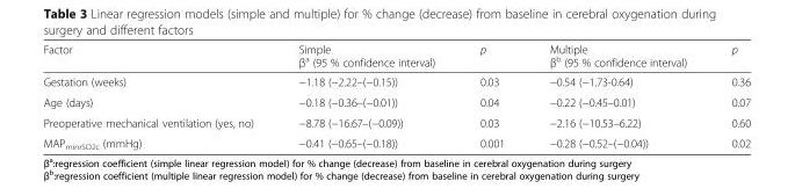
<table><thead><tr><td>Factor</td><td>Simple β<sup>a</sup> (95 % confidence interval)</td><td>p</td><td>Multiple β<sup>b</sup> (95 % confidence interval)</td><td>p</td></tr></thead><tbody><tr><td>Gestation (weeks)</td><td>−1.18 (−2.22–(−0.15))</td><td>0.03</td><td>−0.54 (−1.73-0.64)</td><td>0.36</td></tr><tr><td>Age (days)</td><td>−0.18 (−0.36–(−0.01))</td><td>0.04</td><td>−0.22 (−0.45–0.01)</td><td>0.07</td></tr><tr><td>Preoperative mechanical ventilation (yes, no)</td><td>−8.78 (−16.67–(−0.09))</td><td>0.03</td><td>−2.16 (−10.53–6.22)</td><td>0.60</td></tr><tr><td>MAP<sub>minrSO2c</sub> (mmHg)</td><td>−0.41 (−0.65–(−0.18))</td><td>0.001</td><td>−0.28 (−0.52–(−0.04))</td><td>0.02</td></tr></tbody></table>